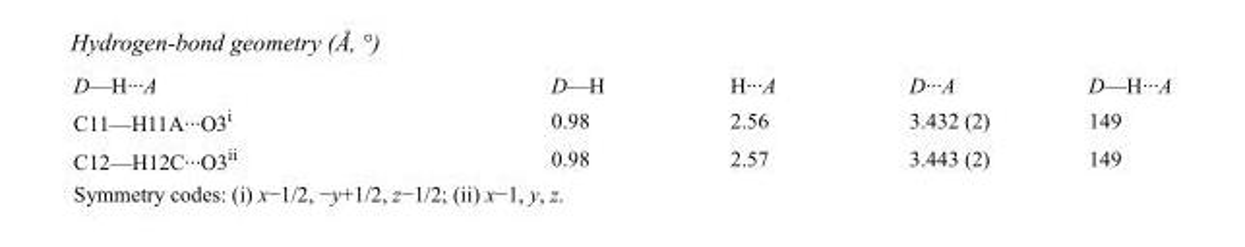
<table><tbody><tr><td>D—H···A</td><td>D—H</td><td>H···A</td><td>D···A</td><td>D—H···A</td></tr><tr><td>C11—H11A···O3<sup>i</sup></td><td>0.98</td><td>2.56</td><td>3.432 (2)</td><td>149</td></tr><tr><td>C12—H12C···O3<sup>ii</sup></td><td>0.98</td><td>2.57</td><td>3.443 (2)</td><td>149</td></tr></tbody></table>